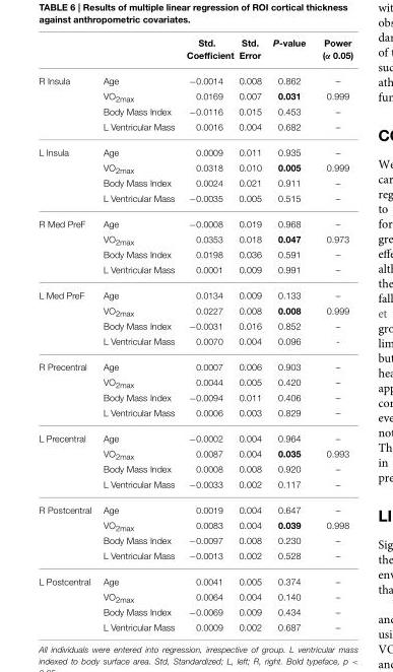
<table><thead><tr><td></td><td></td><td>Std. Coefficient</td><td>Std. Error</td><td>P-value</td><td>Power (α 0.05)</td></tr></thead><tbody><tr><td rowspan="4">R Insula</td><td>Age</td><td>−0.0014</td><td>0.008</td><td>0.862</td><td>–</td></tr><tr><td>VO<sub>2max</sub></td><td>0.0169</td><td>0.007</td><td>0.031</td><td>0.999</td></tr><tr><td>Body Mass Index</td><td>−0.0116</td><td>0.015</td><td>0.453</td><td>–</td></tr><tr><td>L Ventricular Mass</td><td>0.0016</td><td>0.004</td><td>0.682</td><td>–</td></tr><tr><td rowspan="4">L Insula</td><td>Age</td><td>0.0009</td><td>0.011</td><td>0.935</td><td>–</td></tr><tr><td>VO<sub>2max</sub></td><td>0.0318</td><td>0.010</td><td>0.005</td><td>0.999</td></tr><tr><td>Body Mass Index</td><td>0.0024</td><td>0.021</td><td>0.911</td><td>–</td></tr><tr><td>L Ventricular Mass</td><td>−0.0035</td><td>0.005</td><td>0.515</td><td>–</td></tr><tr><td rowspan="4">R Med PreF</td><td>Age</td><td>−0.0008</td><td>0.019</td><td>0.968</td><td>–</td></tr><tr><td>VO<sub>2max</sub></td><td>0.0353</td><td>0.018</td><td>0.047</td><td>0.973</td></tr><tr><td>Body Mass Index</td><td>0.0198</td><td>0.036</td><td>0.591</td><td>–</td></tr><tr><td>L Ventricular Mass</td><td>0.0001</td><td>0.009</td><td>0.991</td><td>–</td></tr><tr><td rowspan="4">L Med PreF</td><td>Age</td><td>0.0134</td><td>0.009</td><td>0.133</td><td>–</td></tr><tr><td>VO<sub>2max</sub></td><td>0.0227</td><td>0.008</td><td>0.008</td><td>0.999</td></tr><tr><td>Body Mass Index</td><td>−0.0031</td><td>0.016</td><td>0.852</td><td>–</td></tr><tr><td>L Ventricular Mass</td><td>0.0070</td><td>0.004</td><td>0.096</td><td>-</td></tr><tr><td rowspan="4">R Precentral</td><td>Age</td><td>0.0007</td><td>0.006</td><td>0.903</td><td>–</td></tr><tr><td>VO<sub>2max</sub></td><td>0.0044</td><td>0.005</td><td>0.420</td><td>–</td></tr><tr><td>Body Mass Index</td><td>−0.0094</td><td>0.011</td><td>0.406</td><td>–</td></tr><tr><td>L Ventricular Mass</td><td>0.0006</td><td>0.003</td><td>0.829</td><td>–</td></tr><tr><td rowspan="4">L Precentral</td><td>Age</td><td>−0.0002</td><td>0.004</td><td>0.964</td><td>–</td></tr><tr><td>VO<sub>2max</sub></td><td>0.0087</td><td>0.004</td><td>0.035</td><td>0.993</td></tr><tr><td>Body Mass Index</td><td>0.0008</td><td>0.008</td><td>0.920</td><td>–</td></tr><tr><td>L Ventricular Mass</td><td>−0.0033</td><td>0.002</td><td>0.117</td><td>–</td></tr><tr><td rowspan="4">R Postcentral</td><td>Age</td><td>0.0019</td><td>0.004</td><td>0.647</td><td>–</td></tr><tr><td>VO<sub>2max</sub></td><td>0.0083</td><td>0.004</td><td>0.039</td><td>0.998</td></tr><tr><td>Body Mass Index</td><td>−0.0097</td><td>0.008</td><td>0.230</td><td>–</td></tr><tr><td>L Ventricular Mass</td><td>−0.0013</td><td>0.002</td><td>0.528</td><td>–</td></tr><tr><td rowspan="4">L Postcentral</td><td>Age</td><td>0.0041</td><td>0.005</td><td>0.374</td><td>–</td></tr><tr><td>VO<sub>2max</sub></td><td>0.0064</td><td>0.004</td><td>0.140</td><td>–</td></tr><tr><td>Body Mass Index</td><td>−0.0069</td><td>0.009</td><td>0.434</td><td>–</td></tr><tr><td>L Ventricular Mass</td><td>0.0009</td><td>0.002</td><td>0.687</td><td>–</td></tr></tbody></table>